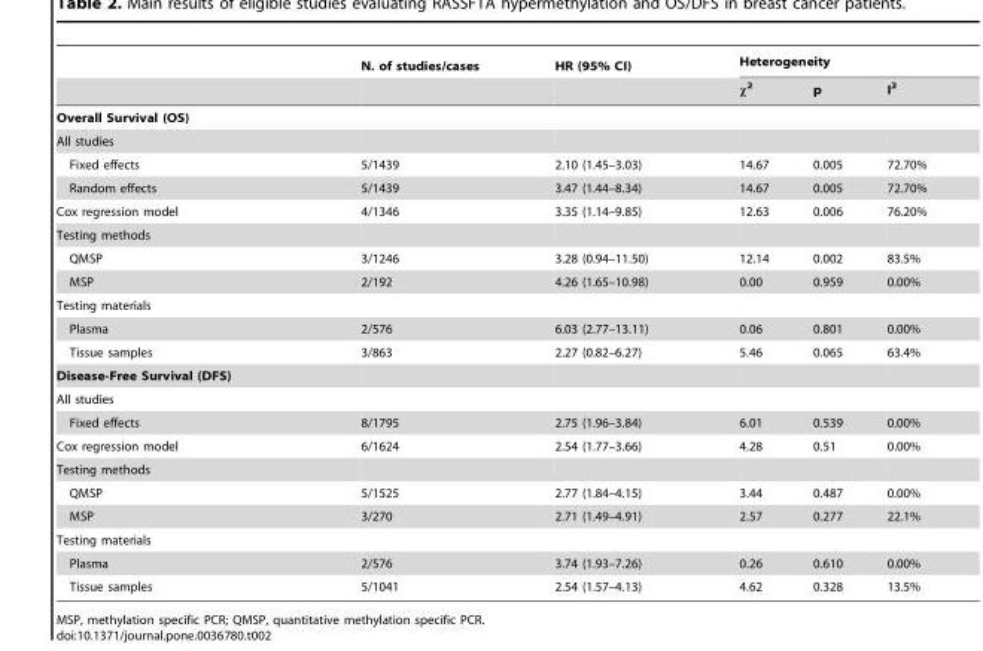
<table><thead><tr><td rowspan="2"></td><td rowspan="2">N. of studies/cases</td><td rowspan="2">HR (95% CI)</td><td colspan="3">Heterogeneity</td></tr><tr><td>χ<sup>2</sup></td><td>p</td><td>I<sup>2</sup></td></tr></thead><tbody><tr><td colspan="6">Overall Survival (OS)</td></tr><tr><td colspan="6">All studies</td></tr><tr><td>Fixed effects</td><td>5/1439</td><td>2.10 (1.45–3.03)</td><td>14.67</td><td>0.005</td><td>72.70%</td></tr><tr><td>Random effects</td><td>5/1439</td><td>3.47 (1.44–8.34)</td><td>14.67</td><td>0.005</td><td>72.70%</td></tr><tr><td>Cox regression model</td><td>4/1346</td><td>3.35 (1.14–9.85)</td><td>12.63</td><td>0.006</td><td>76.20%</td></tr><tr><td colspan="6">Testing methods</td></tr><tr><td>QMSP</td><td>3/1246</td><td>3.28 (0.94–11.50)</td><td>12.14</td><td>0.002</td><td>83.5%</td></tr><tr><td>MSP</td><td>2/192</td><td>4.26 (1.65–10.98)</td><td>0.00</td><td>0.959</td><td>0.00%</td></tr><tr><td colspan="6">Testing materials</td></tr><tr><td>Plasma</td><td>2/576</td><td>6.03 (2.77–13.11)</td><td>0.06</td><td>0.801</td><td>0.00%</td></tr><tr><td>Tissue samples</td><td>3/863</td><td>2.27 (0.82–6.27)</td><td>5.46</td><td>0.065</td><td>63.4%</td></tr><tr><td colspan="6">Disease-Free Survival (DFS)</td></tr><tr><td colspan="6">All studies</td></tr><tr><td>Fixed effects</td><td>8/1795</td><td>2.75 (1.96–3.84)</td><td>6.01</td><td>0.539</td><td>0.00%</td></tr><tr><td>Cox regression model</td><td>6/1624</td><td>2.54 (1.77–3.66)</td><td>4.28</td><td>0.51</td><td>0.00%</td></tr><tr><td colspan="6">Testing methods</td></tr><tr><td>QMSP</td><td>5/1525</td><td>2.77 (1.84–4.15)</td><td>3.44</td><td>0.487</td><td>0.00%</td></tr><tr><td>MSP</td><td>3/270</td><td>2.71 (1.49–4.91)</td><td>2.57</td><td>0.277</td><td>22.1%</td></tr><tr><td colspan="6">Testing materials</td></tr><tr><td>Plasma</td><td>2/576</td><td>3.74 (1.93–7.26)</td><td>0.26</td><td>0.610</td><td>0.00%</td></tr><tr><td>Tissue samples</td><td>5/1041</td><td>2.54 (1.57–4.13)</td><td>4.62</td><td>0.328</td><td>13.5%</td></tr></tbody></table>